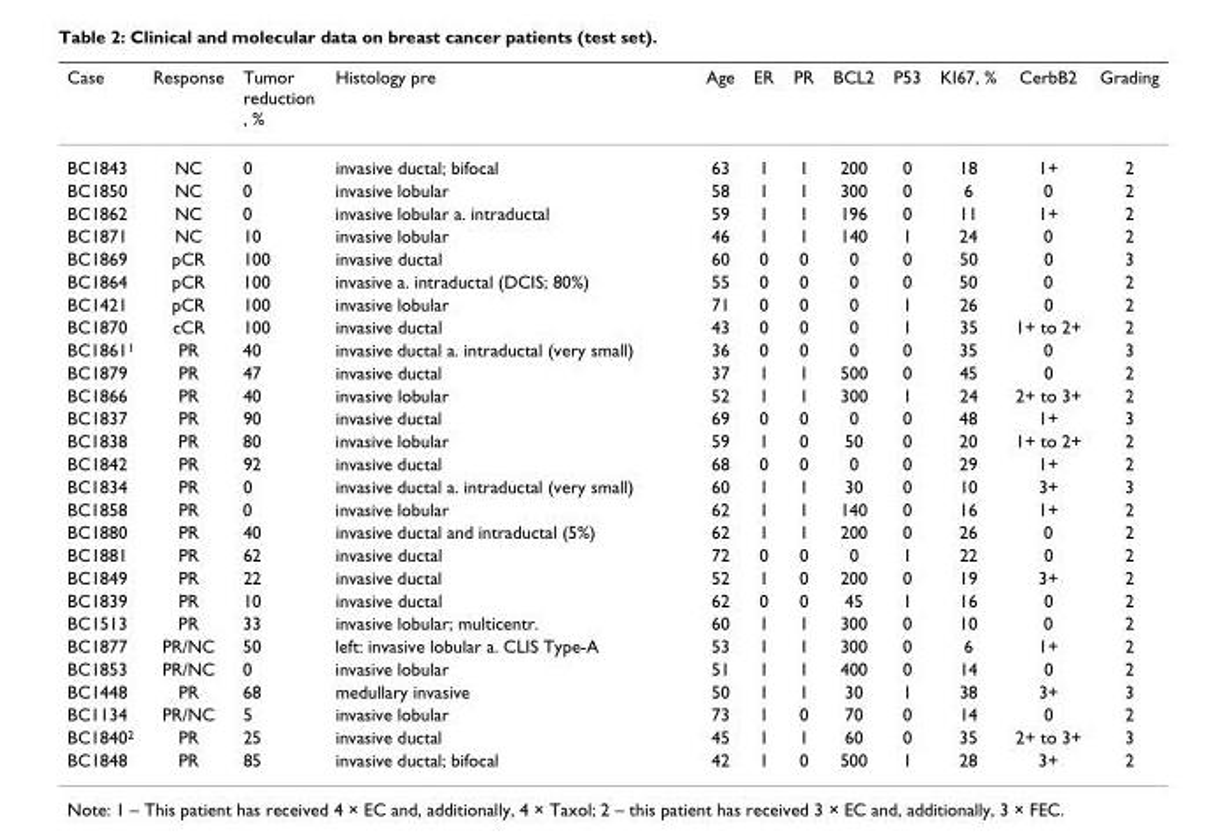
<table><thead><tr><td>Case</td><td>Response</td><td>Tumor reduction , %</td><td>Histology pre</td><td>Age</td><td>ER</td><td>PR</td><td>BCL2</td><td>P53</td><td>KI67, %</td><td>CerbB2</td><td>Grading</td></tr></thead><tbody><tr><td>BC1843</td><td>NC</td><td>0</td><td>invasive ductal; bifocal</td><td>63</td><td>1</td><td>1</td><td>200</td><td>0</td><td>18</td><td>1+</td><td>2</td></tr><tr><td>BC1850</td><td>NC</td><td>0</td><td>invasive lobular</td><td>58</td><td>1</td><td>1</td><td>300</td><td>0</td><td>6</td><td>0</td><td>2</td></tr><tr><td>BC1862</td><td>NC</td><td>0</td><td>invasive lobular a. intraductal</td><td>59</td><td>1</td><td>1</td><td>196</td><td>0</td><td>11</td><td>1+</td><td>2</td></tr><tr><td>BC1871</td><td>NC</td><td>10</td><td>invasive lobular</td><td>46</td><td>1</td><td>1</td><td>140</td><td>1</td><td>24</td><td>0</td><td>2</td></tr><tr><td>BC1869</td><td>pCR</td><td>100</td><td>invasive ductal</td><td>60</td><td>0</td><td>0</td><td>0</td><td>0</td><td>50</td><td>0</td><td>3</td></tr><tr><td>BC1864</td><td>pCR</td><td>100</td><td>invasive a. intraductal (DCIS; 80%)</td><td>55</td><td>0</td><td>0</td><td>0</td><td>0</td><td>50</td><td>0</td><td>2</td></tr><tr><td>BC1421</td><td>pCR</td><td>100</td><td>invasive lobular</td><td>71</td><td>0</td><td>0</td><td>0</td><td>1</td><td>26</td><td>0</td><td>2</td></tr><tr><td>BC1870</td><td>cCR</td><td>100</td><td>invasive ductal</td><td>43</td><td>0</td><td>0</td><td>0</td><td>1</td><td>35</td><td>1+ to 2+</td><td>2</td></tr><tr><td>BC1861<sup>1</sup></td><td>PR</td><td>40</td><td>invasive ductal a. intraductal (very small)</td><td>36</td><td>0</td><td>0</td><td>0</td><td>0</td><td>35</td><td>0</td><td>3</td></tr><tr><td>BC1879</td><td>PR</td><td>47</td><td>invasive ductal</td><td>37</td><td>1</td><td>1</td><td>500</td><td>0</td><td>45</td><td>0</td><td>2</td></tr><tr><td>BC1866</td><td>PR</td><td>40</td><td>invasive lobular</td><td>52</td><td>1</td><td>1</td><td>300</td><td>1</td><td>24</td><td>2+ to 3+</td><td>2</td></tr><tr><td>BC1837</td><td>PR</td><td>90</td><td>invasive ductal</td><td>69</td><td>0</td><td>0</td><td>0</td><td>0</td><td>48</td><td>1+</td><td>3</td></tr><tr><td>BC1838</td><td>PR</td><td>80</td><td>invasive lobular</td><td>59</td><td>1</td><td>0</td><td>50</td><td>0</td><td>20</td><td>1+ to 2+</td><td>2</td></tr><tr><td>BC1842</td><td>PR</td><td>92</td><td>invasive ductal</td><td>68</td><td>0</td><td>0</td><td>0</td><td>0</td><td>29</td><td>1+</td><td>2</td></tr><tr><td>BC1834</td><td>PR</td><td>0</td><td>invasive ductal a. intraductal (very small)</td><td>60</td><td>1</td><td>1</td><td>30</td><td>0</td><td>10</td><td>3+</td><td>3</td></tr><tr><td>BC1858</td><td>PR</td><td>0</td><td>invasive lobular</td><td>62</td><td>1</td><td>1</td><td>140</td><td>0</td><td>16</td><td>1+</td><td>2</td></tr><tr><td>BC1880</td><td>PR</td><td>40</td><td>invasive ductal and intraductal (5%)</td><td>62</td><td>1</td><td>1</td><td>200</td><td>0</td><td>26</td><td>0</td><td>2</td></tr><tr><td>BC1881</td><td>PR</td><td>62</td><td>invasive ductal</td><td>72</td><td>0</td><td>0</td><td>0</td><td>1</td><td>22</td><td>0</td><td>2</td></tr><tr><td>BC1849</td><td>PR</td><td>22</td><td>invasive ductal</td><td>52</td><td>1</td><td>0</td><td>200</td><td>0</td><td>19</td><td>3+</td><td>2</td></tr><tr><td>BC1839</td><td>PR</td><td>10</td><td>invasive ductal</td><td>62</td><td>0</td><td>0</td><td>45</td><td>1</td><td>16</td><td>0</td><td>2</td></tr><tr><td>BC1513</td><td>PR</td><td>33</td><td>invasive lobular; multicentr.</td><td>60</td><td>1</td><td>1</td><td>300</td><td>0</td><td>10</td><td>0</td><td>2</td></tr><tr><td>BC1877</td><td>PR/NC</td><td>50</td><td>left: invasive lobular a. CLIS Type-A</td><td>53</td><td>1</td><td>1</td><td>300</td><td>0</td><td>6</td><td>1+</td><td>2</td></tr><tr><td>BC1853</td><td>PR/NC</td><td>0</td><td>invasive lobular</td><td>51</td><td>1</td><td>1</td><td>400</td><td>0</td><td>14</td><td>0</td><td>2</td></tr><tr><td>BC1448</td><td>PR</td><td>68</td><td>medullary invasive</td><td>50</td><td>1</td><td>1</td><td>30</td><td>1</td><td>38</td><td>3+</td><td>3</td></tr><tr><td>BC1134</td><td>PR/NC</td><td>5</td><td>invasive lobular</td><td>73</td><td>1</td><td>0</td><td>70</td><td>0</td><td>14</td><td>0</td><td>2</td></tr><tr><td>BC1840<sup>2</sup></td><td>PR</td><td>25</td><td>invasive ductal</td><td>45</td><td>1</td><td>1</td><td>60</td><td>0</td><td>35</td><td>2+ to 3+</td><td>3</td></tr><tr><td>BC1848</td><td>PR</td><td>85</td><td>invasive ductal; bifocal</td><td>42</td><td>1</td><td>0</td><td>500</td><td>1</td><td>28</td><td>3+</td><td>2</td></tr></tbody></table>